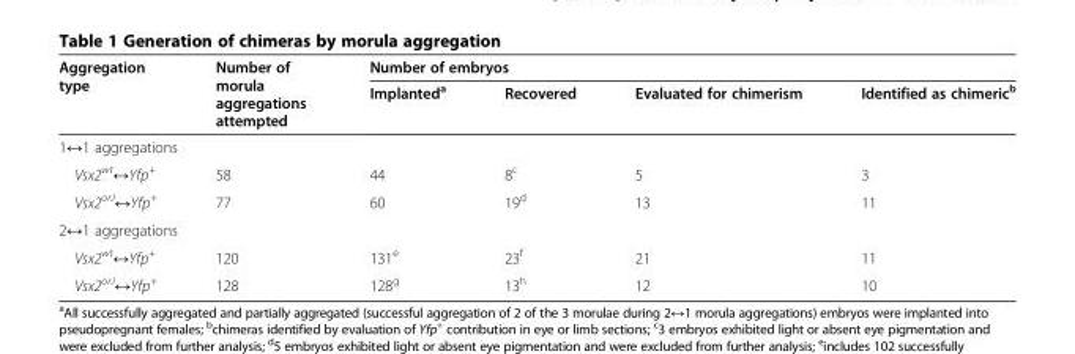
<table><thead><tr><td rowspan="2">Aggregation type</td><td rowspan="2">Number of morula aggregations attempted</td><td colspan="4">Number of embryos</td></tr><tr><td>Implanted<sup>a</sup></td><td>Recovered</td><td>Evaluated for chimerism</td><td>Identified as chimeric<sup>b</sup></td></tr></thead><tbody><tr><td colspan="6">1↔1 aggregations</td></tr><tr><td>Vsx2<sup>wt</sup>↔Yfp<sup>+</sup></td><td>58</td><td>44</td><td>8<sup>c</sup></td><td>5</td><td>3</td></tr><tr><td>Vsx2<sup>orJ</sup>↔Yfp<sup>+</sup></td><td>77</td><td>60</td><td>19<sup>d</sup></td><td>13</td><td>11</td></tr><tr><td colspan="6">2↔1 aggregations</td></tr><tr><td>Vsx2<sup>wt</sup>↔Yfp<sup>+</sup></td><td>120</td><td>131<sup>e</sup></td><td>23<sup>f</sup></td><td>21</td><td>11</td></tr><tr><td>Vsx2<sup>orJ</sup>↔Yfp<sup>+</sup></td><td>128</td><td>128<sup>g</sup></td><td>13<sup>h</sup></td><td>12</td><td>10</td></tr></tbody></table>